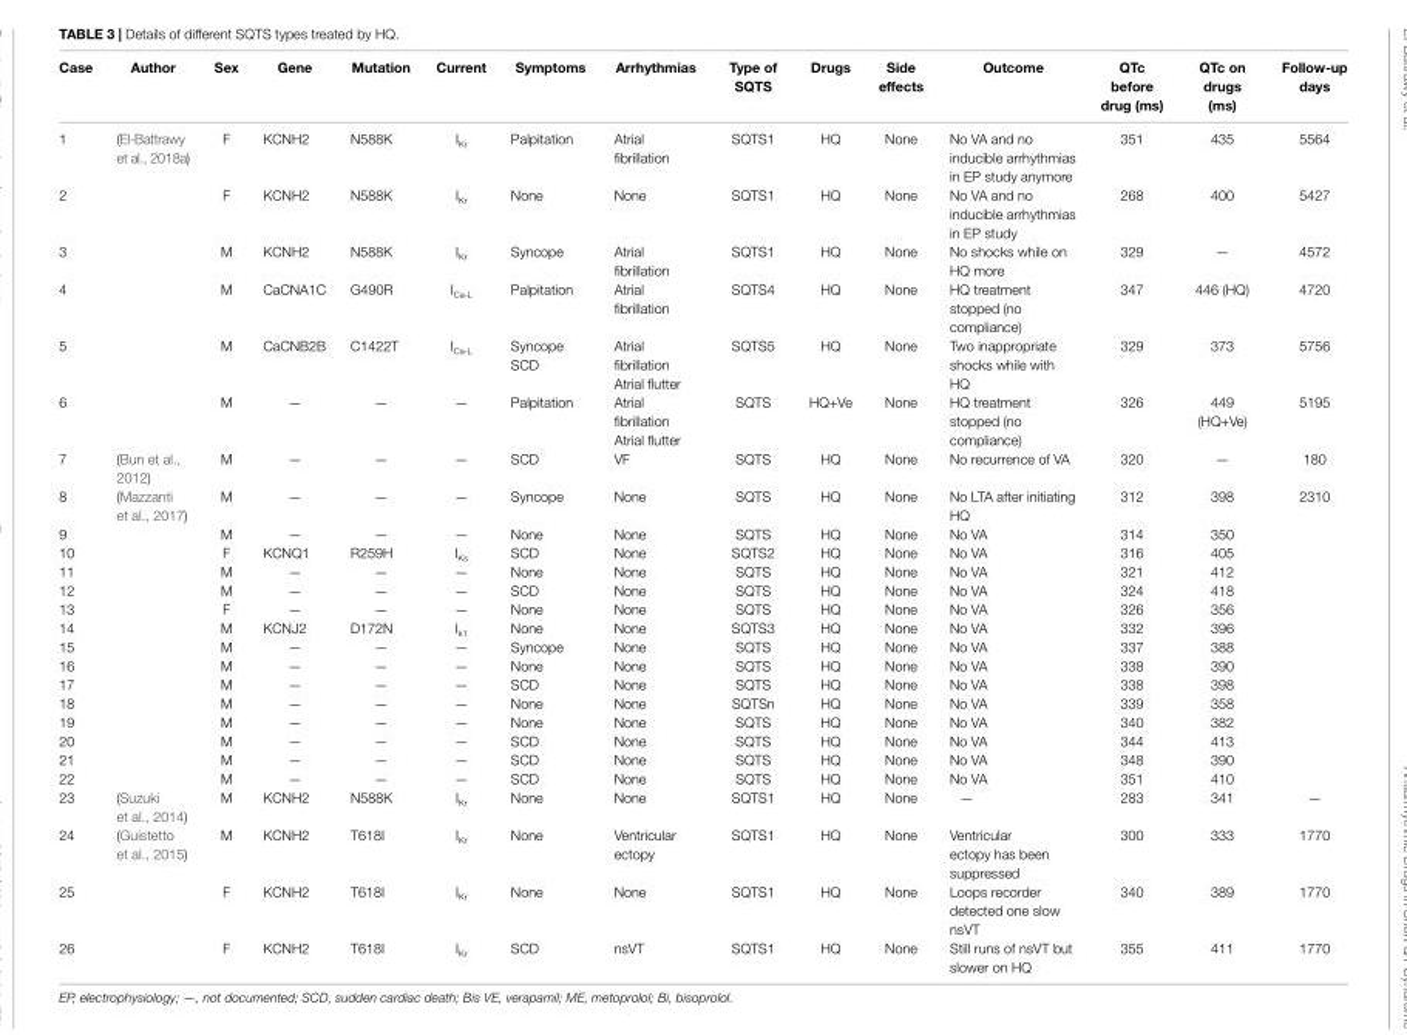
<table><thead><tr><td>Case</td><td>Author</td><td>Sex</td><td>Gene</td><td>Mutation</td><td>Current</td><td>Symptoms</td><td>Arrhythmias</td><td>Type of SQTS</td><td>Drugs</td><td>Side effects</td><td>Outcome</td><td>QTc before drug (ms)</td><td>QTc on drugs (ms)</td><td>Follow-up days</td></tr></thead><tbody><tr><td>1</td><td rowspan="5">(El-Battrawy et al., 2018a)</td><td>F</td><td>KCNH2</td><td>N588K</td><td>I<sub>Kr</sub></td><td>Palpitation</td><td>Atrial fibrillation</td><td>SQTS1</td><td>HQ</td><td>None</td><td>No VA and no inducible arrhythmias in EP study anymore</td><td>351</td><td>435</td><td>5564</td></tr><tr><td>2</td><td>F</td><td>KCNH2</td><td>N588K</td><td>I<sub>Kr</sub></td><td>None</td><td>None</td><td>SQTS1</td><td>HQ</td><td>None</td><td>No VA and no inducible arrhythmias in EP study</td><td>268</td><td>400</td><td>5427</td></tr><tr><td>3</td><td>M</td><td>KCNH2</td><td>N588K</td><td>I<sub>Kr</sub></td><td>Syncope</td><td>Atrial fibrillation</td><td>SQTS1</td><td>HQ</td><td>None</td><td>No shocks while on HQ more</td><td>329</td><td>—</td><td>4572</td></tr><tr><td>4</td><td>M</td><td>CaCNA1C</td><td>G490R</td><td>I<sub>Ca-L</sub></td><td>Palpitation</td><td>Atrial fibrillation</td><td>SQTS4</td><td>HQ</td><td>None</td><td>HQ treatment stopped (no compliance)</td><td>347</td><td>446 (HQ)</td><td>4720</td></tr><tr><td>5</td><td>M</td><td>CaCNB2B</td><td>C1422T</td><td>I<sub>Ca-L</sub></td><td>Syncope SCD</td><td>Atrial fibrillation Atrial flutter</td><td>SQTS5</td><td>HQ</td><td>None</td><td>Two inappropriate shocks while with HQ</td><td>329</td><td>373</td><td>5756</td></tr><tr><td>6</td><td></td><td>M</td><td>—</td><td>—</td><td>—</td><td>Palpitation</td><td>Atrial fibrillation Atrial flutter</td><td>SQTS</td><td>HQ+Ve</td><td>None</td><td>HQ treatment stopped (no compliance)</td><td>326</td><td>449 (HQ+Ve)</td><td>5195</td></tr><tr><td>7</td><td>(Bun et al., 2012)</td><td>M</td><td>—</td><td>—</td><td>—</td><td>SCD</td><td>VF</td><td>SQTS</td><td>HQ</td><td>None</td><td>No recurrence of VA</td><td>320</td><td>—</td><td>180</td></tr><tr><td>8</td><td rowspan="15">(Mazzanti et al., 2017)</td><td>M</td><td>—</td><td>—</td><td>—</td><td>Syncope</td><td>None</td><td>SQTS</td><td>HQ</td><td>None</td><td>No LTA after initiating HQ</td><td>312</td><td>398</td><td rowspan="15">2310</td></tr><tr><td>9</td><td>M</td><td>—</td><td>—</td><td>—</td><td>None</td><td>None</td><td>SQTS</td><td>HQ</td><td>None</td><td>No VA</td><td>314</td><td>350</td></tr><tr><td>10</td><td>F</td><td>KCNQ1</td><td>R259H</td><td>I<sub>Ks</sub></td><td>SCD</td><td>None</td><td>SQTS2</td><td>HQ</td><td>None</td><td>No VA</td><td>316</td><td>405</td></tr><tr><td>11</td><td>M</td><td>—</td><td>—</td><td>—</td><td>None</td><td>None</td><td>SQTS</td><td>HQ</td><td>None</td><td>No VA</td><td>321</td><td>412</td></tr><tr><td>12</td><td>M</td><td>—</td><td>—</td><td>—</td><td>SCD</td><td>None</td><td>SQTS</td><td>HQ</td><td>None</td><td>No VA</td><td>324</td><td>418</td></tr><tr><td>13</td><td>F</td><td>—</td><td>—</td><td>—</td><td>None</td><td>None</td><td>SQTS</td><td>HQ</td><td>None</td><td>No VA</td><td>326</td><td>356</td></tr><tr><td>14</td><td>M</td><td>KCNJ2</td><td>D172N</td><td>I<sub>k1</sub></td><td>None</td><td>None</td><td>SQTS3</td><td>HQ</td><td>None</td><td>No VA</td><td>332</td><td>396</td></tr><tr><td>15</td><td>M</td><td>—</td><td>—</td><td>—</td><td>Syncope</td><td>None</td><td>SQTS</td><td>HQ</td><td>None</td><td>No VA</td><td>337</td><td>388</td></tr><tr><td>16</td><td>M</td><td>—</td><td>—</td><td>—</td><td>None</td><td>None</td><td>SQTS</td><td>HQ</td><td>None</td><td>No VA</td><td>338</td><td>390</td></tr><tr><td>17</td><td>M</td><td>—</td><td>—</td><td>—</td><td>SCD</td><td>None</td><td>SQTS</td><td>HQ</td><td>None</td><td>No VA</td><td>338</td><td>398</td></tr><tr><td>18</td><td>M</td><td>—</td><td>—</td><td>—</td><td>None</td><td>None</td><td>SQTSn</td><td>HQ</td><td>None</td><td>No VA</td><td>339</td><td>358</td></tr><tr><td>19</td><td>M</td><td>—</td><td>—</td><td>—</td><td>None</td><td>None</td><td>SQTS</td><td>HQ</td><td>None</td><td>No VA</td><td>340</td><td>382</td></tr><tr><td>20</td><td>M</td><td>—</td><td>—</td><td>—</td><td>SCD</td><td>None</td><td>SQTS</td><td>HQ</td><td>None</td><td>No VA</td><td>344</td><td>413</td></tr><tr><td>21</td><td>M</td><td>—</td><td>—</td><td>—</td><td>SCD</td><td>None</td><td>SQTS</td><td>HQ</td><td>None</td><td>No VA</td><td>348</td><td>390</td></tr><tr><td>22</td><td>M</td><td>—</td><td>—</td><td>—</td><td>SCD</td><td>None</td><td>SQTS</td><td>HQ</td><td>None</td><td>No VA</td><td>351</td><td>410</td></tr><tr><td>23</td><td>(Suzuki et al., 2014)</td><td>M</td><td>KCNH2</td><td>N588K</td><td>I<sub>Kr</sub></td><td>None</td><td>None</td><td>SQTS1</td><td>HQ</td><td>None</td><td>—</td><td>283</td><td>341</td><td>—</td></tr><tr><td>24</td><td rowspan="3">(Guistetto et al., 2015)</td><td>M</td><td>KCNH2</td><td>T618I</td><td>I<sub>Kr</sub></td><td>None</td><td>Ventricular ectopy</td><td>SQTS1</td><td>HQ</td><td>None</td><td>Ventricular ectopy has been suppressed</td><td>300</td><td>333</td><td>1770</td></tr><tr><td>25</td><td>F</td><td>KCNH2</td><td>T618I</td><td>I<sub>Kr</sub></td><td>None</td><td>None</td><td>SQTS1</td><td>HQ</td><td>None</td><td>Loops recorder detected one slow nsVT</td><td>340</td><td>389</td><td>1770</td></tr><tr><td>26</td><td>F</td><td>KCNH2</td><td>T618I</td><td>I<sub>Kr</sub></td><td>SCD</td><td>nsVT</td><td>SQTS1</td><td>HQ</td><td>None</td><td>Still runs of nsVT but slower on HQ</td><td>355</td><td>411</td><td>1770</td></tr></tbody></table>